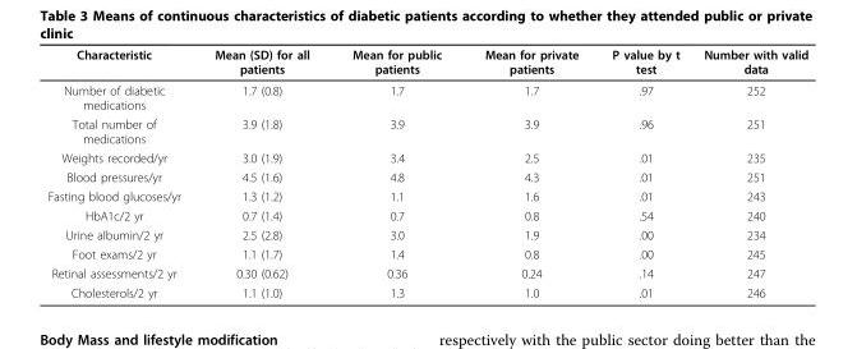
<table><thead><tr><td>Characteristic</td><td>Mean (SD) for all patients</td><td>Mean for public patients</td><td>Mean for private patients</td><td>P value by t test</td><td>Number with valid data</td></tr></thead><tbody><tr><td>Number of diabetic medications</td><td>1.7 (0.8)</td><td>1.7</td><td>1.7</td><td>.97</td><td>252</td></tr><tr><td>Total number of medications</td><td>3.9 (1.8)</td><td>3.9</td><td>3.9</td><td>.96</td><td>251</td></tr><tr><td>Weights recorded/yr</td><td>3.0 (1.9)</td><td>3.4</td><td>2.5</td><td>.01</td><td>235</td></tr><tr><td>Blood pressures/yr</td><td>4.5 (1.6)</td><td>4.8</td><td>4.3</td><td>.01</td><td>251</td></tr><tr><td>Fasting blood glucoses/yr</td><td>1.3 (1.2)</td><td>1.1</td><td>1.6</td><td>.01</td><td>243</td></tr><tr><td>HbA1c/2 yr</td><td>0.7 (1.4)</td><td>0.7</td><td>0.8</td><td>.54</td><td>240</td></tr><tr><td>Urine albumin/2 yr</td><td>2.5 (2.8)</td><td>3.0</td><td>1.9</td><td>.00</td><td>234</td></tr><tr><td>Foot exams/2 yr</td><td>1.1 (1.7)</td><td>1.4</td><td>0.8</td><td>.00</td><td>245</td></tr><tr><td>Retinal assessments/2 yr</td><td>0.30 (0.62)</td><td>0.36</td><td>0.24</td><td>.14</td><td>247</td></tr><tr><td>Cholesterols/2 yr</td><td>1.1 (1.0)</td><td>1.3</td><td>1.0</td><td>.01</td><td>246</td></tr></tbody></table>